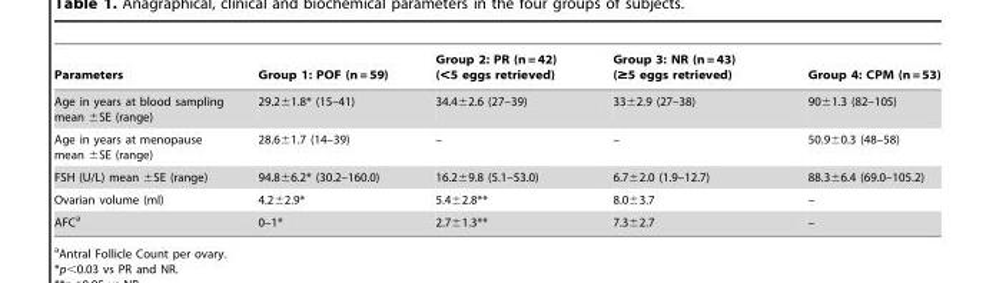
<table><thead><tr><td>Parameters</td><td>Group 1: POF (n = 59)</td><td>Group 2: PR (n = 42) (&lt;5 eggs retrieved)</td><td>Group 3: NR (n = 43) (≥5 eggs retrieved)</td><td>Group 4: CPM (n = 53)</td></tr></thead><tbody><tr><td>Age in years at blood sampling mean ±SE (range)</td><td>29.2±1.8* (15–41)</td><td>34.4±2.6 (27–39)</td><td>33±2.9 (27–38)</td><td>90±1.3 (82–105)</td></tr><tr><td>Age in years at menopause mean ±SE (range)</td><td>28.6±1.7 (14–39)</td><td>–</td><td>–</td><td>50.9±0.3 (48–58)</td></tr><tr><td>FSH (U/L) mean ±SE (range)</td><td>94.8±6.2* (30.2–160.0)</td><td>16.2±9.8 (5.1–53.0)</td><td>6.7±2.0 (1.9–12.7)</td><td>88.3±6.4 (69.0–105.2)</td></tr><tr><td>Ovarian volume (ml)</td><td>4.2±2.9*</td><td>5.4±2.8**</td><td>8.0±3.7</td><td>–</td></tr><tr><td>AFC<sup>a</sup></td><td>0–1*</td><td>2.7±1.3**</td><td>7.3±2.7</td><td>–</td></tr></tbody></table>